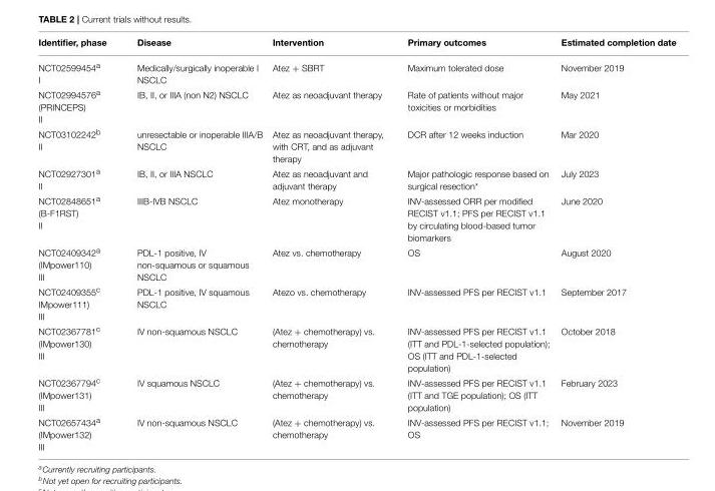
<table><thead><tr><td>Identifier, phase</td><td>Disease</td><td>Intervention</td><td>Primary outcomes</td><td>Estimated completion date</td></tr></thead><tbody><tr><td>NCT02599454<sup>a</sup> I</td><td>Medically/surgically inoperable I NSCLC</td><td>Atez + SBRT</td><td>Maximum tolerated dose</td><td>November 2019</td></tr><tr><td>NCT02994576<sup>a</sup> (PRINCEPS) II</td><td>IB, II, or IIIA (non N2) NSCLC</td><td>Atez as neoadjuvant therapy</td><td>Rate of patients without major toxicities or morbidities</td><td>May 2021</td></tr><tr><td>NCT03102242<sup>b</sup> II</td><td>unresectable or inoperable IIIA/B NSCLC</td><td>Atez as neoadjuvant therapy, with CRT, and as adjuvant therapy</td><td>DCR after 12 weeks induction</td><td>Mar 2020</td></tr><tr><td>NCT02927301<sup>a</sup> II</td><td>IB, II, or IIIA NSCLC</td><td>Atez as neoadjuvant and adjuvant therapy</td><td>Major pathologic response based on surgical resection*</td><td>July 2023</td></tr><tr><td>NCT02848651<sup>a</sup> (B-F1RST) II</td><td>IIIB-IVB NSCLC</td><td>Atez monotherapy</td><td>INV-assessed ORR per modified RECIST v1.1; PFS per RECIST v1.1 by circulating blood-based tumor biomarkers</td><td>June 2020</td></tr><tr><td>NCT02409342<sup>a</sup> (IMpower110) III</td><td>PDL-1 positive, IV non-squamous or squamous NSCLC</td><td>Atez vs. chemotherapy</td><td>OS</td><td>August 2020</td></tr><tr><td>NCT02409355<sup>c</sup> IMpower111) III</td><td>PDL-1 positive, IV squamous NSCLC</td><td>Atezo vs. chemotherapy</td><td>INV-assessed PFS per RECIST v1.1</td><td>September 2017</td></tr><tr><td>NCT02367781<sup>c</sup> (IMpower130) III</td><td>IV non-squamous NSCLC</td><td>(Atez + chemotherapy) vs. chemotherapy</td><td>INV-assessed PFS per RECIST v1.1 (ITT and PDL-1-selected population); OS (ITT and PDL-1-selected population)</td><td>October 2018</td></tr><tr><td>NCT02367794<sup>c</sup> (IMpower131) III</td><td>IV squamous NSCLC</td><td>(Atez + chemotherapy) vs. chemotherapy</td><td>INV-assessed PFS per RECIST v1.1 (ITT and TGE population); OS (ITT population)</td><td>February 2023</td></tr><tr><td>NCT02657434<sup>a</sup> (IMpower132) III</td><td>IV non-squamous NSCLC</td><td>(Atez + chemotherapy) vs. chemotherapy</td><td>INV-assessed PFS per RECIST v1.1; OS</td><td>November 2019</td></tr></tbody></table>